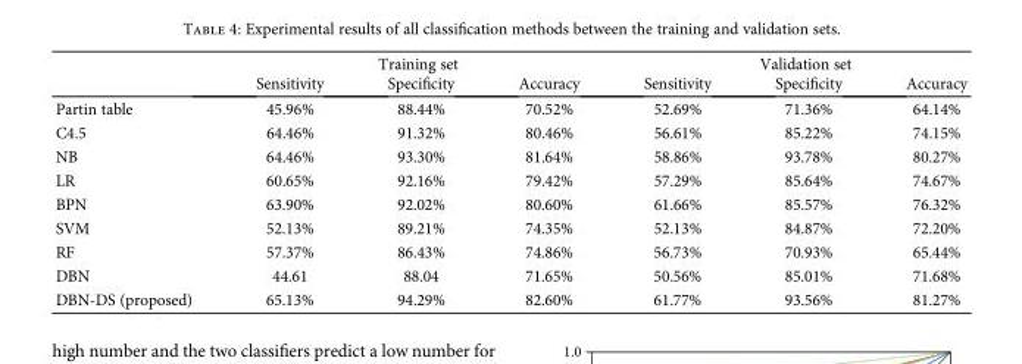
<table><thead><tr><td rowspan="2"></td><td colspan="3">Training set</td><td colspan="3">Validation set</td></tr><tr><td>Sensitivity</td><td>Specificity</td><td>Accuracy</td><td>Sensitivity</td><td>Specificity</td><td>Accuracy</td></tr></thead><tbody><tr><td>Partin table</td><td>45.96%</td><td>88.44%</td><td>70.52%</td><td>52.69%</td><td>71.36%</td><td>64.14%</td></tr><tr><td>C4.5</td><td>64.46%</td><td>91.32%</td><td>80.46%</td><td>56.61%</td><td>85.22%</td><td>74.15%</td></tr><tr><td>NB</td><td>64.46%</td><td>93.30%</td><td>81.64%</td><td>58.86%</td><td>93.78%</td><td>80.27%</td></tr><tr><td>LR</td><td>60.65%</td><td>92.16%</td><td>79.42%</td><td>57.29%</td><td>85.64%</td><td>74.67%</td></tr><tr><td>BPN</td><td>63.90%</td><td>92.02%</td><td>80.60%</td><td>61.66%</td><td>85.57%</td><td>76.32%</td></tr><tr><td>SVM</td><td>52.13%</td><td>89.21%</td><td>74.35%</td><td>52.13%</td><td>84.87%</td><td>72.20%</td></tr><tr><td>RF</td><td>57.37%</td><td>86.43%</td><td>74.86%</td><td>56.73%</td><td>70.93%</td><td>65.44%</td></tr><tr><td>DBN</td><td>44.61</td><td>88.04</td><td>71.65%</td><td>50.56%</td><td>85.01%</td><td>71.68%</td></tr><tr><td>DBN-DS (proposed)</td><td>65.13%</td><td>94.29%</td><td>82.60%</td><td>61.77%</td><td>93.56%</td><td>81.27%</td></tr></tbody></table>